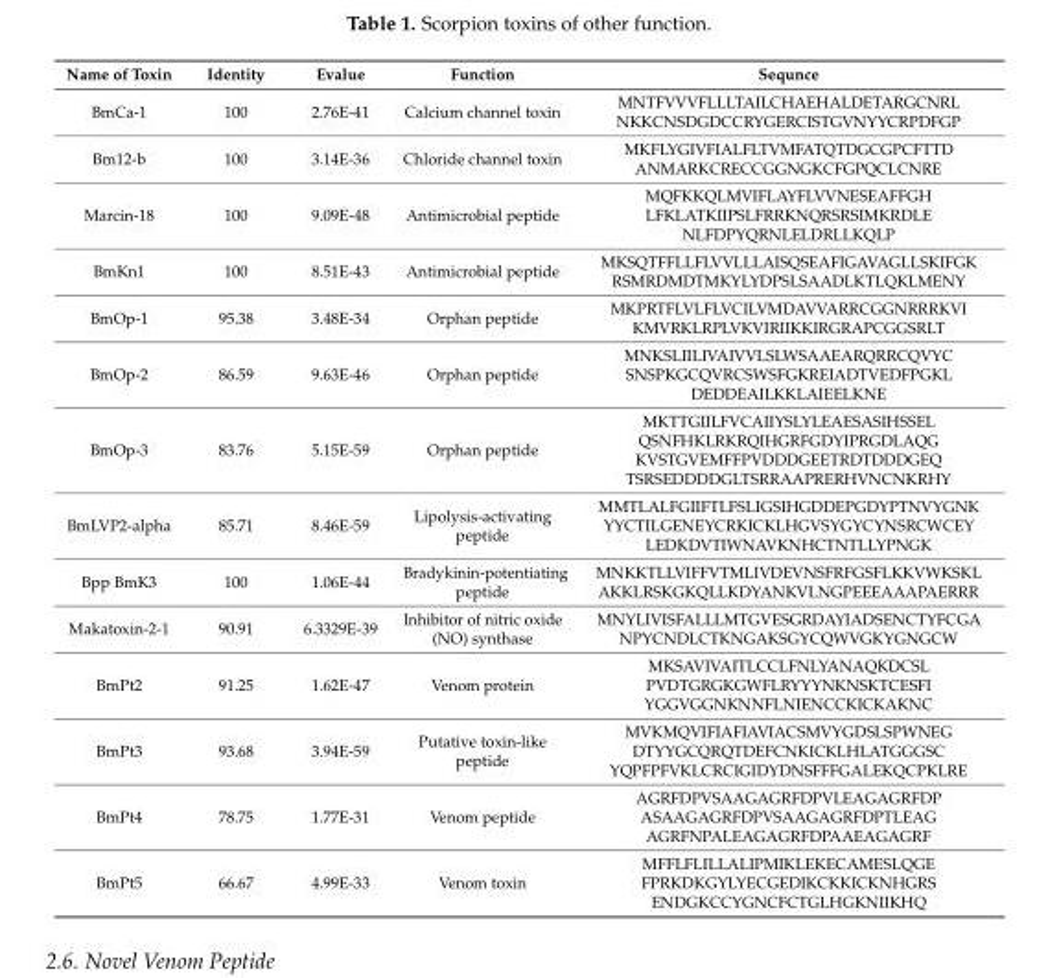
<table><thead><tr><td>Name of Toxin</td><td>Identity</td><td>Evalue</td><td>Function</td><td>Sequnce</td></tr></thead><tbody><tr><td>BmCa-1</td><td>100</td><td>2.76E-41</td><td>Calcium channel toxin</td><td>MNTFVVVFLLLTAILCHAEHALDETARGCNRL NKKCNSDGDCCRYGERCISTGVNYYCRPDFGP</td></tr><tr><td>Bm12-b</td><td>100</td><td>3.14E-36</td><td>Chloride channel toxin</td><td>MKFLYGIVFIALFLTVMFATQTDGCGPCFTTD ANMARKCRECCGGNGKCFGPQCLCNRE</td></tr><tr><td>Marcin-18</td><td>100</td><td>9.09E-48</td><td>Antimicrobial peptide</td><td>MQFKKQLMVIFLAYFLVVNESEAFFGH LFKLATKIIPSLFRRKNQRSRSIMKRDLE NLFDPYQRNLELDRLLKQLP</td></tr><tr><td>BmKn1</td><td>100</td><td>8.51E-43</td><td>Antimicrobial peptide</td><td>MKSQTFFLLFLVVLLLAISQSEAFIGAVAGLLSKIFGK RSMRDMDTMKYLYDPSLSAADLKTLQKLMENY</td></tr><tr><td>BmOp-1</td><td>95.38</td><td>3.48E-34</td><td>Orphan peptide</td><td>MKPRTFLVLFLVCILVMDAVVARRCGGNRRRKVI KMVRKLRPLVKVIRIIKKIRGRAPCGGSRLT</td></tr><tr><td>BmOp-2</td><td>86.59</td><td>9.63E-46</td><td>Orphan peptide</td><td>MNKSLIILIVAIVVLSLWSAAEARQRRCQVYC SNSPKGCQVRCSWSFGKREIADTVEDFPGKL DEDDEAILKKLAIEELKNE</td></tr><tr><td>BmOp-3</td><td>83.76</td><td>5.15E-59</td><td>Orphan peptide</td><td>MKTTGIILFVCAIIYSLYLEAESASIHSSEL QSNFHKLRKRQIHGRFGDYIPRGDLAQG KVSTGVEMFFPVDDDGEETRDTDDDGEQ TSRSEDDDDGLTSRRAAPRERHVNCNKRHY</td></tr><tr><td>BmLVP2-alpha</td><td>85.71</td><td>8.46E-59</td><td>Lipolysis-activating peptide</td><td>MMTLALFGIIFTLFSLIGSIHGDDEPGDYPTNVYGNK YYCTILGENEYCRKICKLHGVSYGYCYNSRCWCEY LEDKDVTIWNAVKNHCTNTLLYPNGK</td></tr><tr><td>Bpp BmK3</td><td>100</td><td>1.06E-44</td><td>Bradykinin-potentiating peptide</td><td>MNKKTLLVIFFVTMLIVDEVNSFRFGSFLKKVWKSKL AKKLRSKGKQLLKDYANKVLNGPEEEAAAPAERRR</td></tr><tr><td>Makatoxin-2-1</td><td>90.91</td><td>6.3329E-39</td><td>Inhibitor of nitric oxide (NO) synthase</td><td>MNYLIVISFALLLMTGVESGRDAYIADSENCTYFCGA NPYCNDLCTKNGAKSGYCQWVGKYGNGCW</td></tr><tr><td>BmPt2</td><td>91.25</td><td>1.62E-47</td><td>Venom protein</td><td>MKSAVIVAITLCCLFNLYANAQKDCSL PVDTGRGKGWFLRYYYNKNSKTCESFI YGGVGGNKNNFLNIENCCKICKAKNC</td></tr><tr><td>BmPt3</td><td>93.68</td><td>3.94E-59</td><td>Putative toxin-like peptide</td><td>MVKMQVIFIAFIAVIACSMVYGDSLSPWNEG DTYYGCQRQTDEFCNKICKLHLATGGGSC YQPFPFVKLCRCIGIDYDNSFFFGALEKQCPKLRE</td></tr><tr><td>BmPt4</td><td>78.75</td><td>1.77E-31</td><td>Venom peptide</td><td>AGRFDPVSAAGAGRFDPVLEAGAGRFDP ASAAGAGRFDPVSAAGAGRFDPTLEAG AGRFNPALEAGAGRFDPAAEAGAGRF</td></tr><tr><td>BmPt5</td><td>66.67</td><td>4.99E-33</td><td>Venom toxin</td><td>MFFLFLILLALIPMIKLEKECAMESLQGE FPRKDKGYLYECGEDIKCKKICKNHGRS ENDGKCCYGNCFCTGLHGKNIIKHQ</td></tr></tbody></table>